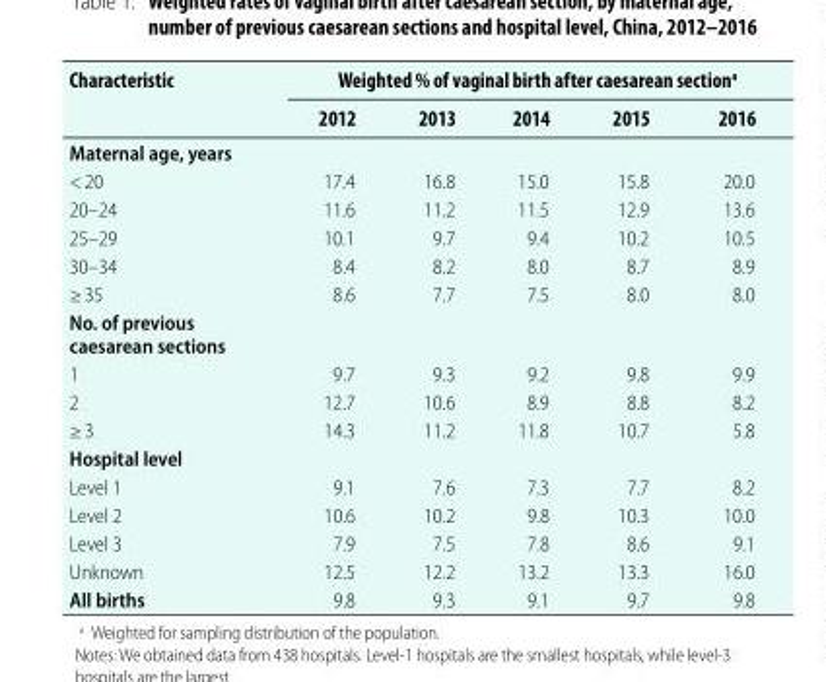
<table><thead><tr><td rowspan="2">Characteristic</td><td colspan="5">Weighted % of vaginal birth after caesarean section<sup>a</sup></td></tr><tr><td>2012</td><td>2013</td><td>2014</td><td>2015</td><td>2016</td></tr></thead><tbody><tr><td colspan="6">Maternal age, years</td></tr><tr><td>&lt; 20</td><td>17.4</td><td>16.8</td><td>15.0</td><td>15.8</td><td>20.0</td></tr><tr><td>20–24</td><td>11.6</td><td>11.2</td><td>11.5</td><td>12.9</td><td>13.6</td></tr><tr><td>25–29</td><td>10.1</td><td>9.7</td><td>9.4</td><td>10.2</td><td>10.5</td></tr><tr><td>30–34</td><td>8.4</td><td>8.2</td><td>8.0</td><td>8.7</td><td>8.9</td></tr><tr><td>≥ 35</td><td>8.6</td><td>7.7</td><td>7.5</td><td>8.0</td><td>8.0</td></tr><tr><td colspan="6">No. of previous caesarean sections</td></tr><tr><td>1</td><td>9.7</td><td>9.3</td><td>9.2</td><td>9.8</td><td>9.9</td></tr><tr><td>2</td><td>12.7</td><td>10.6</td><td>8.9</td><td>8.8</td><td>8.2</td></tr><tr><td>≥ 3</td><td>14.3</td><td>11.2</td><td>11.8</td><td>10.7</td><td>5.8</td></tr><tr><td colspan="6">Hospital level</td></tr><tr><td>Level 1</td><td>9.1</td><td>7.6</td><td>7.3</td><td>7.7</td><td>8.2</td></tr><tr><td>Level 2</td><td>10.6</td><td>10.2</td><td>9.8</td><td>10.3</td><td>10.0</td></tr><tr><td>Level 3</td><td>7.9</td><td>7.5</td><td>7.8</td><td>8.6</td><td>9.1</td></tr><tr><td>Unknown</td><td>12.5</td><td>12.2</td><td>13.2</td><td>13.3</td><td>16.0</td></tr><tr><td>All births</td><td>9.8</td><td>9.3</td><td>9.1</td><td>9.7</td><td>9.8</td></tr></tbody></table>